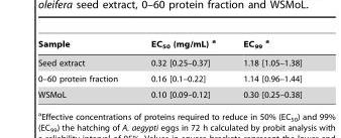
<table><thead><tr><td>Sample</td><td>EC<sub>50</sub> (mg/mL) a</td><td>EC<sub>99</sub> a</td></tr></thead><tbody><tr><td>Seed extract</td><td>0.32 [0.25–0.37]</td><td>1.18 [1.05–1.38]</td></tr><tr><td>0–60 protein fraction</td><td>0.16 [0.1–0.22]</td><td>1.14 [0.96–1.44]</td></tr><tr><td>WSMoL</td><td>0.10 [0.09–0.12]</td><td>0.30 [0.25–0.38]</td></tr></tbody></table>